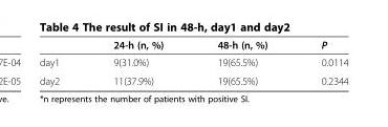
<table><thead><tr><td></td><td>24-h (n, %)</td><td>48-h (n, %)</td><td>P</td></tr></thead><tbody><tr><td>day1</td><td>9(31.0%)</td><td>19(65.5%)</td><td>0.0114</td></tr><tr><td>day2</td><td>11(37.9%)</td><td>19(65.5%)</td><td>0.2344</td></tr></tbody></table>